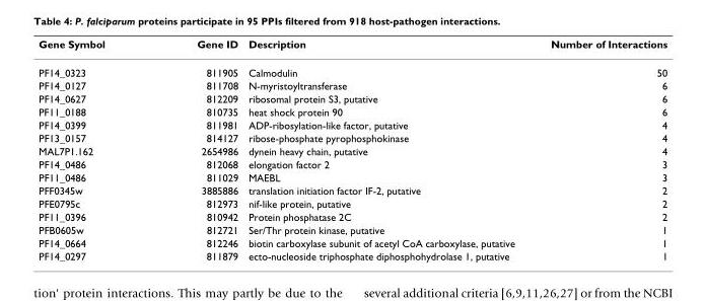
<table><thead><tr><td>Gene Symbol</td><td>Gene ID</td><td>Description</td><td>Number of Interactions</td></tr></thead><tbody><tr><td>PF14_0323</td><td>811905</td><td>Calmodulin</td><td>50</td></tr><tr><td>PF14_0127</td><td>811708</td><td>N-myristoyltransferase</td><td>6</td></tr><tr><td>PF14_0627</td><td>812209</td><td>ribosomal protein S3, putative</td><td>6</td></tr><tr><td>PF11_0188</td><td>810735</td><td>heat shock protein 90</td><td>6</td></tr><tr><td>PF14_0399</td><td>811981</td><td>ADP-ribosylation-like factor, putative</td><td>4</td></tr><tr><td>PF13_0157</td><td>814127</td><td>ribose-phosphate pyrophosphokinase</td><td>4</td></tr><tr><td>MAL7P1.162</td><td>2654986</td><td>dynein heavy chain, putative</td><td>4</td></tr><tr><td>PF14_0486</td><td>812068</td><td>elongation factor 2</td><td>3</td></tr><tr><td>PF11_0486</td><td>811029</td><td>MAEBL</td><td>3</td></tr><tr><td>PFF0345w</td><td>3885886</td><td>translation initiation factor IF-2, putative</td><td>2</td></tr><tr><td>PFE0795c</td><td>812973</td><td>nif-like protein, putative</td><td>2</td></tr><tr><td>PF11_0396</td><td>810942</td><td>Protein phosphatase 2C</td><td>2</td></tr><tr><td>PFB0605w</td><td>812721</td><td>Ser/Thr protein kinase, putative</td><td>1</td></tr><tr><td>PF14_0664</td><td>812246</td><td>biotin carboxylase subunit of acetyl CoA carboxylase, putative</td><td>1</td></tr><tr><td>PF14_0297</td><td>811879</td><td>ecto-nucleoside triphosphate diphosphohydrolase 1, putative</td><td>1</td></tr></tbody></table>